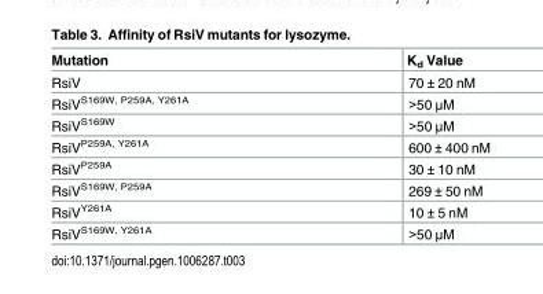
<table><thead><tr><td>Mutation</td><td>K<sub>d</sub> Value</td></tr></thead><tbody><tr><td>RsiV</td><td>70 ± 20 nM</td></tr><tr><td>RsiV<sup>S169W, P259A, Y261A</sup></td><td>&gt;50 μM</td></tr><tr><td>RsiV<sup>S169W</sup></td><td>&gt;50 μM</td></tr><tr><td>RsiV<sup>P259A, Y261A</sup></td><td>600 ± 400 nM</td></tr><tr><td>RsiV<sup>P259A</sup></td><td>30 ± 10 nM</td></tr><tr><td>RsiV<sup>S169W, P259A</sup></td><td>269 ± 50 nM</td></tr><tr><td>RsiV<sup>Y261A</sup></td><td>10 ± 5 nM</td></tr><tr><td>RsiV<sup>S169W, Y261A</sup></td><td>&gt;50 μM</td></tr></tbody></table>